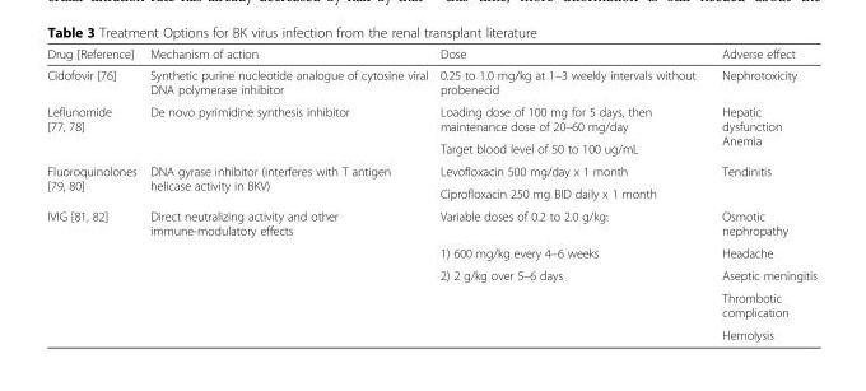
<table><thead><tr><td>Drug [Reference]</td><td>Mechanism of action</td><td>Dose</td><td>Adverse effect</td></tr></thead><tbody><tr><td>Cidofovir [76]</td><td>Synthetic purine nucleotide analogue of cytosine viral DNA polymerase inhibitor</td><td>0.25 to 1.0 mg/kg at 1–3 weekly intervals without probenecid</td><td>Nephrotoxicity</td></tr><tr><td rowspan="2">Leflunomide [77, 78]</td><td rowspan="2">De novo pyrimidine synthesis inhibitor</td><td>Loading dose of 100 mg for 5 days, then maintenance dose of 20–60 mg/day</td><td rowspan="2">Hepatic dysfunction Anemia</td></tr><tr><td>Target blood level of 50 to 100 ug/mL</td></tr><tr><td rowspan="2">Fluoroquinolones [79, 80]</td><td rowspan="2">DNA gyrase inhibitor (interferes with T antigen helicase activity in BKV)</td><td>Levofloxacin 500 mg/day x 1 month</td><td rowspan="2">Tendinitis</td></tr><tr><td>Ciprofloxacin 250 mg BID daily x 1 month</td></tr><tr><td rowspan="5">IVIG [81, 82]</td><td rowspan="5">Direct neutralizing activity and other immune-modulatory effects</td><td>Variable doses of 0.2 to 2.0 g/kg:</td><td>Osmotic nephropathy</td></tr><tr><td>1) 600 mg/kg every 4–6 weeks</td><td>Headache</td></tr><tr><td rowspan="3">2) 2 g/kg over 5–6 days</td><td>Aseptic meningitis</td></tr><tr><td>Thrombotic complication</td></tr><tr><td>Hemolysis</td></tr></tbody></table>